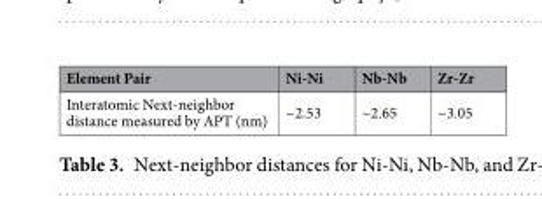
<table><thead><tr><td>Element Pair</td><td>Ni-Ni</td><td>Nb-Nb</td><td>Zr-Zr</td></tr></thead><tbody><tr><td>Interatomic Next-neighbor distance measured by APT (nm)</td><td>~2.53</td><td>~2.65</td><td>~3.05</td></tr></tbody></table>